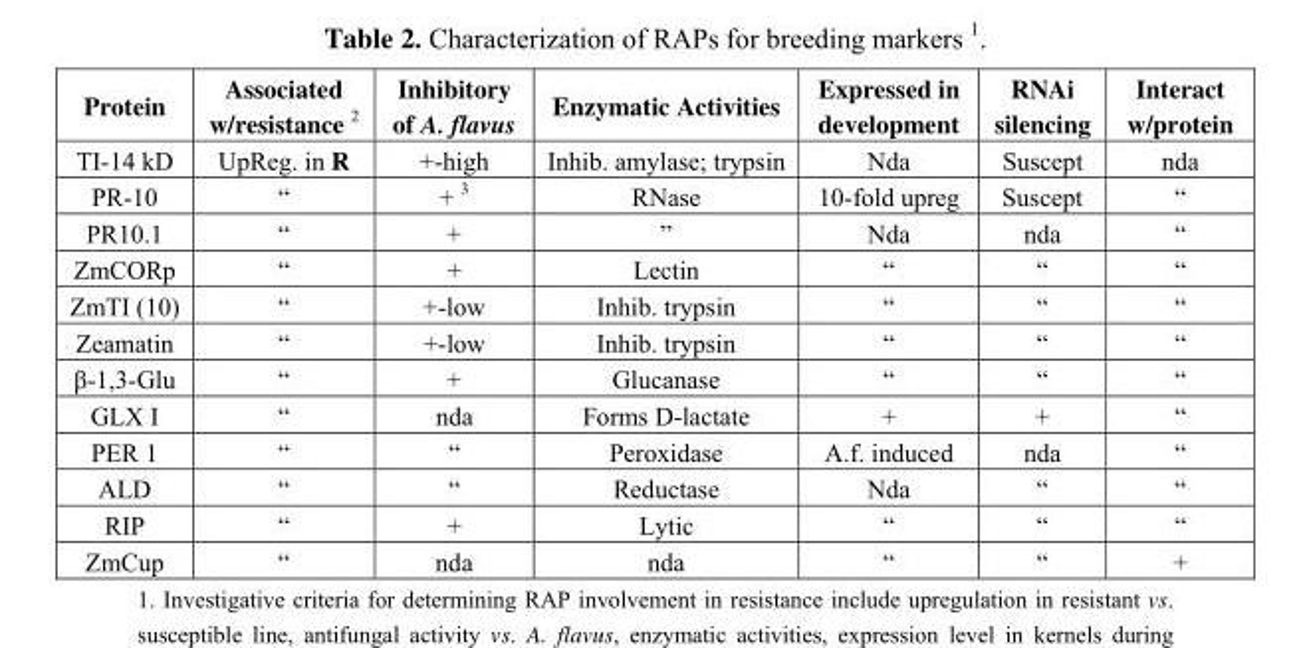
<table><thead><tr><td>Protein</td><td>Associated w/resistance <sup>2</sup></td><td>Inhibitory of A. flavus</td><td>Enzymatic Activities</td><td>Expressed in development</td><td>RNAi silencing</td><td>Interact w/protein</td></tr></thead><tbody><tr><td>TI-14 kD</td><td>UpReg. in R</td><td>+-high</td><td>Inhib. amylase; trypsin</td><td>Nda</td><td>Suscept</td><td>nda</td></tr><tr><td>PR-10</td><td>“</td><td>+ <sup>3</sup></td><td>RNase</td><td>10-fold upreg</td><td>Suscept</td><td>“</td></tr><tr><td>PR10.1</td><td>“</td><td>+</td><td>”</td><td>Nda</td><td>nda</td><td>“</td></tr><tr><td>ZmCORp</td><td>“</td><td>+</td><td>Lectin</td><td>“</td><td>“</td><td>“</td></tr><tr><td>ZmTI (10)</td><td>“</td><td>+-low</td><td>Inhib. trypsin</td><td>“</td><td>“</td><td>“</td></tr><tr><td>Zeamatin</td><td>“</td><td>+-low</td><td>Inhib. trypsin</td><td>“</td><td>“</td><td>“</td></tr><tr><td>β-1,3-Glu</td><td>“</td><td>+</td><td>Glucanase</td><td>“</td><td>“</td><td>“</td></tr><tr><td>GLX I</td><td>“</td><td>nda</td><td>Forms D-lactate</td><td>+</td><td>+</td><td>“</td></tr><tr><td>PER 1</td><td>“</td><td>“</td><td>Peroxidase</td><td>A.f. induced</td><td>nda</td><td>“</td></tr><tr><td>ALD</td><td>“</td><td>“</td><td>Reductase</td><td>Nda</td><td>“</td><td>“</td></tr><tr><td>RIP</td><td>“</td><td>+</td><td>Lytic</td><td>“</td><td>“</td><td>“</td></tr><tr><td>ZmCup</td><td>“</td><td>nda</td><td>nda</td><td>“</td><td>“</td><td>+</td></tr></tbody></table>